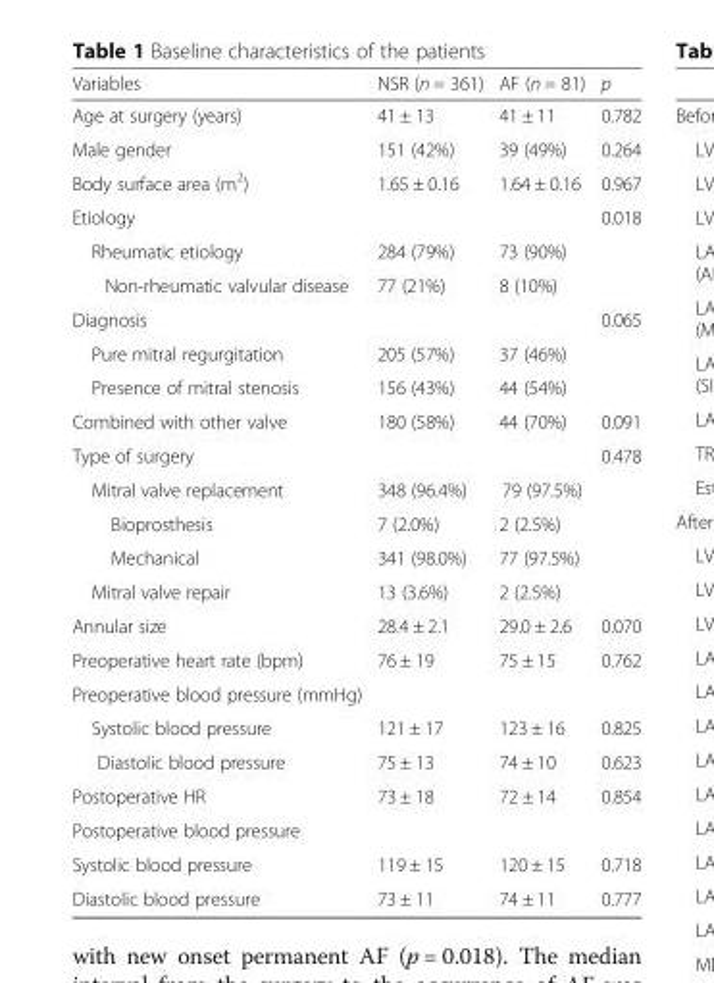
<table><thead><tr><td>Variables</td><td>NSR (n = 361)</td><td>AF (n = 81)</td><td>p</td></tr></thead><tbody><tr><td>Age at surgery (years)</td><td>41 ± 13</td><td>41 ± 11</td><td>0.782</td></tr><tr><td>Male gender</td><td>151 (42%)</td><td>39 (49%)</td><td>0.264</td></tr><tr><td>Body surface area (m<sup>2</sup>)</td><td>1.65 ± 0.16</td><td>1.64 ± 0.16</td><td>0.967</td></tr><tr><td>Etiology</td><td></td><td></td><td>0.018</td></tr><tr><td>Rheumatic etiology</td><td>284 (79%)</td><td>73 (90%)</td><td></td></tr><tr><td>Non-rheumatic valvular disease</td><td>77 (21%)</td><td>8 (10%)</td><td></td></tr><tr><td>Diagnosis</td><td></td><td></td><td>0.065</td></tr><tr><td>Pure mitral regurgitation</td><td>205 (57%)</td><td>37 (46%)</td><td></td></tr><tr><td>Presence of mitral stenosis</td><td>156 (43%)</td><td>44 (54%)</td><td></td></tr><tr><td>Combined with other valve</td><td>180 (58%)</td><td>44 (70%)</td><td>0.091</td></tr><tr><td>Type of surgery</td><td></td><td></td><td>0.478</td></tr><tr><td>Mitral valve replacement</td><td>348 (96.4%)</td><td>79 (97.5%)</td><td></td></tr><tr><td>Bioprosthesis</td><td>7 (2.0%)</td><td>2 (2.5%)</td><td></td></tr><tr><td>Mechanical</td><td>341 (98.0%)</td><td>77 (97.5%)</td><td></td></tr><tr><td>Mitral valve repair</td><td>13 (3.6%)</td><td>2 (2.5%)</td><td></td></tr><tr><td>Annular size</td><td>28.4 ± 2.1</td><td>29.0 ± 2.6</td><td>0.070</td></tr><tr><td>Preoperative heart rate (bpm)</td><td>76 ± 19</td><td>75 ± 15</td><td>0.762</td></tr><tr><td colspan="4">Preoperative blood pressure (mmHg)</td></tr><tr><td>Systolic blood pressure</td><td>121 ± 17</td><td>123 ± 16</td><td>0.825</td></tr><tr><td>Diastolic blood pressure</td><td>75 ± 13</td><td>74 ± 10</td><td>0.623</td></tr><tr><td>Postoperative HR</td><td>73 ± 18</td><td>72 ± 14</td><td>0.854</td></tr><tr><td colspan="4">Postoperative blood pressure</td></tr><tr><td>Systolic blood pressure</td><td>119 ± 15</td><td>120 ± 15</td><td>0.718</td></tr><tr><td>Diastolic blood pressure</td><td>73 ± 11</td><td>74 ± 11</td><td>0.777</td></tr></tbody></table>